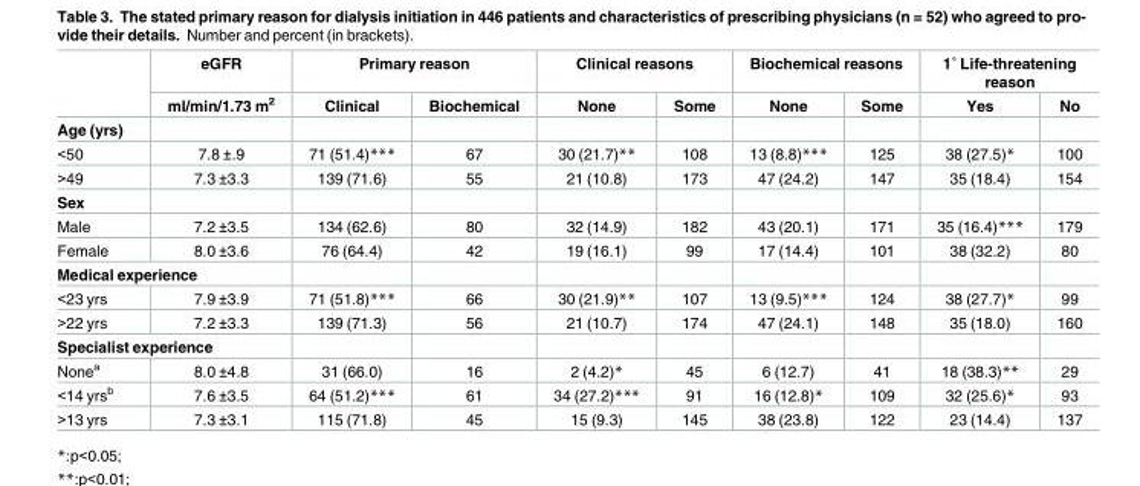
<table><thead><tr><td rowspan="2"></td><td rowspan="2">eGFR ml/min/1.73 m<sup>2</sup></td><td colspan="2">Primary reason</td><td colspan="2">Clinical reasons</td><td colspan="2">Biochemical reasons</td><td colspan="2">1˚ Life-threatening reason</td></tr><tr><td>Clinical</td><td>Biochemical</td><td>None</td><td>Some</td><td>None</td><td>Some</td><td>Yes</td><td>No</td></tr></thead><tbody><tr><td colspan="10">Age (yrs)</td></tr><tr><td>&lt;50</td><td>7.8 ±.9</td><td>71 (51.4)***</td><td>67</td><td>30 (21.7)**</td><td>108</td><td>13 (8.8)***</td><td>125</td><td>38 (27.5)*</td><td>100</td></tr><tr><td>&gt;49</td><td>7.3 ±3.3</td><td>139 (71.6)</td><td>55</td><td>21 (10.8)</td><td>173</td><td>47 (24.2)</td><td>147</td><td>35 (18.4)</td><td>154</td></tr><tr><td colspan="10">Sex</td></tr><tr><td>Male</td><td>7.2 ±3.5</td><td>134 (62.6)</td><td>80</td><td>32 (14.9)</td><td>182</td><td>43 (20.1)</td><td>171</td><td>35 (16.4)***</td><td>179</td></tr><tr><td>Female</td><td>8.0 ±3.6</td><td>76 (64.4)</td><td>42</td><td>19 (16.1)</td><td>99</td><td>17 (14.4)</td><td>101</td><td>38 (32.2)</td><td>80</td></tr><tr><td colspan="10">Medical experience</td></tr><tr><td>&lt;23 yrs</td><td>7.9 ±3.9</td><td>71 (51.8)***</td><td>66</td><td>30 (21.9)**</td><td>107</td><td>13 (9.5)***</td><td>124</td><td>38 (27.7)*</td><td>99</td></tr><tr><td>&gt;22 yrs</td><td>7.2 ±3.3</td><td>139 (71.3)</td><td>56</td><td>21 (10.7)</td><td>174</td><td>47 (24.1)</td><td>148</td><td>35 (18.0)</td><td>160</td></tr><tr><td colspan="10">Specialist experience</td></tr><tr><td>None<sup>a</sup></td><td>8.0 ±4.8</td><td>31 (66.0)</td><td>16</td><td>2 (4.2)*</td><td>45</td><td>6 (12.7)</td><td>41</td><td>18 (38.3)**</td><td>29</td></tr><tr><td>&lt;14 yrs<sup>b</sup></td><td>7.6 ±3.5</td><td>64 (51.2)***</td><td>61</td><td>34 (27.2)***</td><td>91</td><td>16 (12.8)*</td><td>109</td><td>32 (25.6)*</td><td>93</td></tr><tr><td>&gt;13 yrs</td><td>7.3 ±3.1</td><td>115 (71.8)</td><td>45</td><td>15 (9.3)</td><td>145</td><td>38 (23.8)</td><td>122</td><td>23 (14.4)</td><td>137</td></tr></tbody></table>